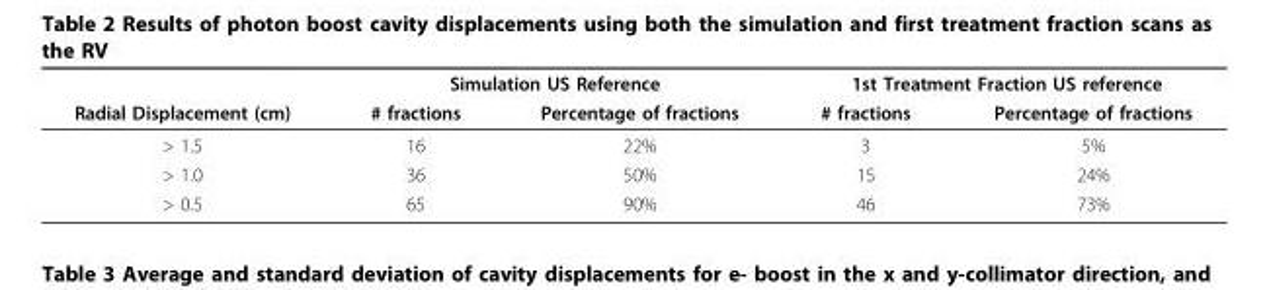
<table><thead><tr><td rowspan="2">Radial Displacement (cm)</td><td colspan="2">Simulation US Reference</td><td colspan="2">1st Treatment Fraction US reference</td></tr><tr><td># fractions</td><td>Percentage of fractions</td><td># fractions</td><td>Percentage of fractions</td></tr></thead><tbody><tr><td>&gt; 1.5</td><td>16</td><td>22%</td><td>3</td><td>5%</td></tr><tr><td>&gt; 1.0</td><td>36</td><td>50%</td><td>15</td><td>24%</td></tr><tr><td>&gt; 0.5</td><td>65</td><td>90%</td><td>46</td><td>73%</td></tr></tbody></table>